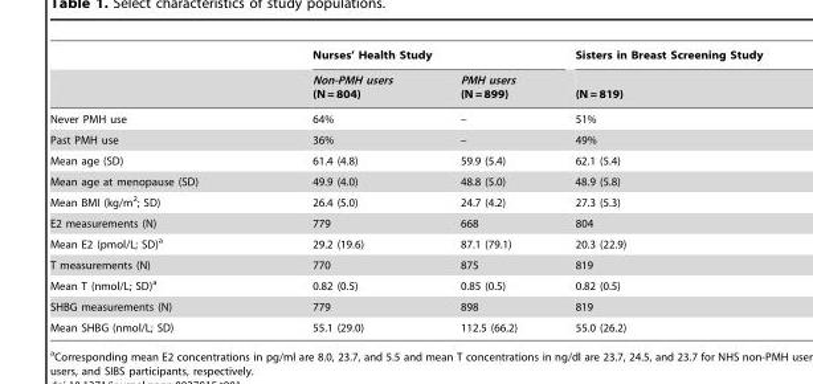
<table><thead><tr><td rowspan="2"></td><td colspan="2">Nurses’ Health Study</td><td rowspan="2">Sisters in Breast Screening Study (N = 819)</td></tr><tr><td>Non-PMH users (N = 804)</td><td>PMH users (N = 899)</td></tr></thead><tbody><tr><td>Never PMH use</td><td>64%</td><td>–</td><td>51%</td></tr><tr><td>Past PMH use</td><td>36%</td><td>–</td><td>49%</td></tr><tr><td>Mean age (SD)</td><td>61.4 (4.8)</td><td>59.9 (5.4)</td><td>62.1 (5.4)</td></tr><tr><td>Mean age at menopause (SD)</td><td>49.9 (4.0)</td><td>48.8 (5.0)</td><td>48.9 (5.8)</td></tr><tr><td>Mean BMI (kg/m<sup>2</sup>; SD)</td><td>26.4 (5.0)</td><td>24.7 (4.2)</td><td>27.3 (5.3)</td></tr><tr><td>E2 measurements (N)</td><td>779</td><td>668</td><td>804</td></tr><tr><td>Mean E2 (pmol/L; SD)<sup>a</sup></td><td>29.2 (19.6)</td><td>87.1 (79.1)</td><td>20.3 (22.9)</td></tr><tr><td>T measurements (N)</td><td>770</td><td>875</td><td>819</td></tr><tr><td>Mean T (nmol/L; SD)<sup>a</sup></td><td>0.82 (0.5)</td><td>0.85 (0.5)</td><td>0.82 (0.5)</td></tr><tr><td>SHBG measurements (N)</td><td>779</td><td>898</td><td>819</td></tr><tr><td>Mean SHBG (nmol/L; SD)</td><td>55.1 (29.0)</td><td>112.5 (66.2)</td><td>55.0 (26.2)</td></tr></tbody></table>